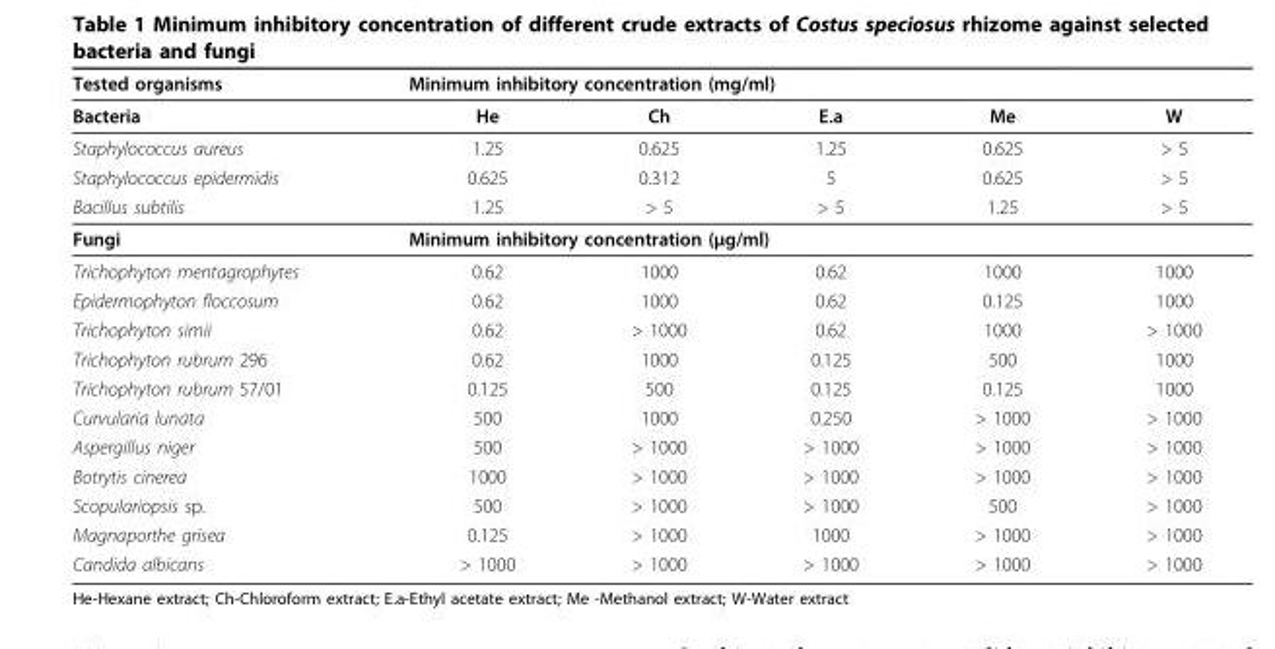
<table><thead><tr><td rowspan="2">Tested organisms Bacteria</td><td colspan="5">Minimum inhibitory concentration (mg/ml)</td></tr><tr><td>He</td><td>Ch</td><td>E.a</td><td>Me</td><td>W</td></tr></thead><tbody><tr><td>Staphylococcus aureus</td><td>1.25</td><td>0.625</td><td>1.25</td><td>0.625</td><td>&gt; 5</td></tr><tr><td>Staphylococcus epidermidis</td><td>0.625</td><td>0.312</td><td>5</td><td>0.625</td><td>&gt; 5</td></tr><tr><td>Bacillus subtilis</td><td>1.25</td><td>&gt; 5</td><td>&gt; 5</td><td>1.25</td><td>&gt; 5</td></tr><tr><td>Fungi</td><td colspan="5">Minimum inhibitory concentration (μg/ml)</td></tr><tr><td>Trichophyton mentagrophytes</td><td>0.62</td><td>1000</td><td>0.62</td><td>1000</td><td>1000</td></tr><tr><td>Epidermophyton floccosum</td><td>0.62</td><td>1000</td><td>0.62</td><td>0.125</td><td>1000</td></tr><tr><td>Trichophyton simii</td><td>0.62</td><td>&gt; 1000</td><td>0.62</td><td>1000</td><td>&gt; 1000</td></tr><tr><td>Trichophyton rubrum 296</td><td>0.62</td><td>1000</td><td>0.125</td><td>500</td><td>1000</td></tr><tr><td>Trichophyton rubrum 57/01</td><td>0.125</td><td>500</td><td>0.125</td><td>0.125</td><td>1000</td></tr><tr><td>Curvularia lunata</td><td>500</td><td>1000</td><td>0.250</td><td>&gt; 1000</td><td>&gt; 1000</td></tr><tr><td>Aspergillus niger</td><td>500</td><td>&gt; 1000</td><td>&gt; 1000</td><td>&gt; 1000</td><td>&gt; 1000</td></tr><tr><td>Botrytis cinerea</td><td>1000</td><td>&gt; 1000</td><td>&gt; 1000</td><td>&gt; 1000</td><td>&gt; 1000</td></tr><tr><td>Scopulariopsis sp.</td><td>500</td><td>&gt; 1000</td><td>&gt; 1000</td><td>500</td><td>&gt; 1000</td></tr><tr><td>Magnaporthe grisea</td><td>0.125</td><td>&gt; 1000</td><td>1000</td><td>&gt; 1000</td><td>&gt; 1000</td></tr><tr><td>Candida albicans</td><td>&gt; 1000</td><td>&gt; 1000</td><td>&gt; 1000</td><td>&gt; 1000</td><td>&gt; 1000</td></tr></tbody></table>